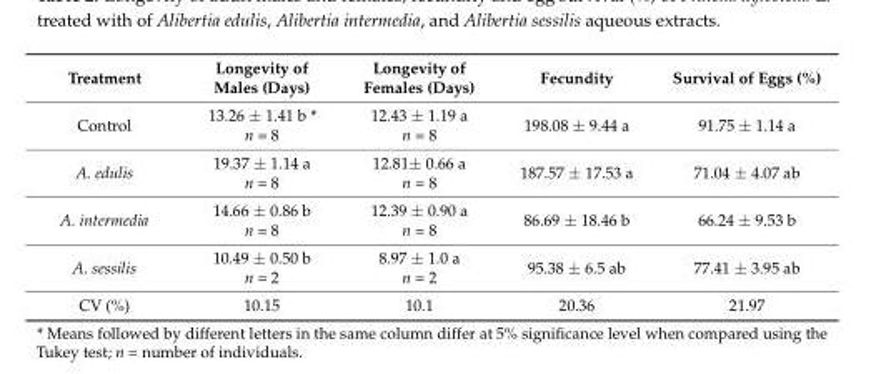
<table><thead><tr><td>Treatment</td><td>Longevity of Males (Days)</td><td>Longevity of Females (Days)</td><td>Fecundity</td><td>Survival of Eggs (%)</td></tr></thead><tbody><tr><td>Control</td><td>13.26 ± 1.41 b * n = 8</td><td>12.43 ± 1.19 a n = 8</td><td>198.08 ± 9.44 a</td><td>91.75 ± 1.14 a</td></tr><tr><td>A. edulis</td><td>19.37 ± 1.14 a n = 8</td><td>12.81± 0.66 a n = 8</td><td>187.57 ± 17.53 a</td><td>71.04 ± 4.07 ab</td></tr><tr><td>A. intermedia</td><td>14.66 ± 0.86 b n = 8</td><td>12.39 ± 0.90 a n = 8</td><td>86.69 ± 18.46 b</td><td>66.24 ± 9.53 b</td></tr><tr><td>A. sessilis</td><td>10.49 ± 0.50 b n = 2</td><td>8.97 ± 1.0 a n = 2</td><td>95.38 ± 6.5 ab</td><td>77.41 ± 3.95 ab</td></tr><tr><td>CV (%)</td><td>10.15</td><td>10.1</td><td>20.36</td><td>21.97</td></tr></tbody></table>